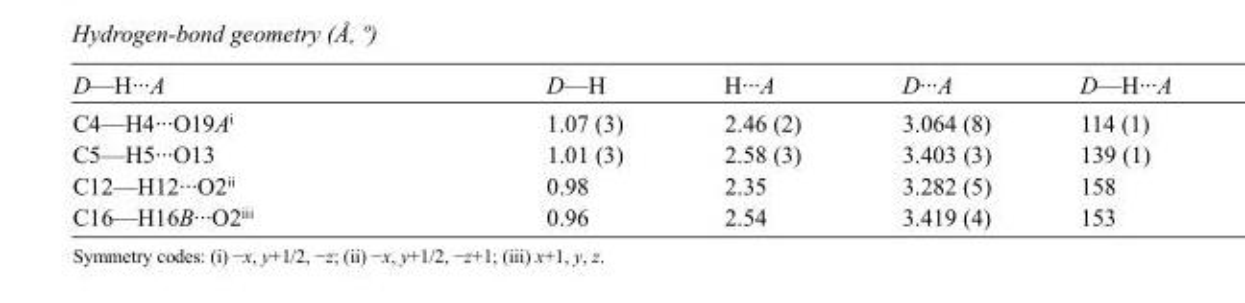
<table><tbody><tr><td>D—H···A</td><td>D—H</td><td>H···A</td><td>D···A</td><td>D—H···A</td></tr><tr><td>C4—H4···O19A<sup>i</sup></td><td>1.07 (3)</td><td>2.46 (2)</td><td>3.064 (8)</td><td>114 (1)</td></tr><tr><td>C5—H5···O13</td><td>1.01 (3)</td><td>2.58 (3)</td><td>3.403 (3)</td><td>139 (1)</td></tr><tr><td>C12—H12···O2<sup>ii</sup></td><td>0.98</td><td>2.35</td><td>3.282 (5)</td><td>158</td></tr><tr><td>C16—H16B···O2<sup>iii</sup></td><td>0.96</td><td>2.54</td><td>3.419 (4)</td><td>153</td></tr></tbody></table>